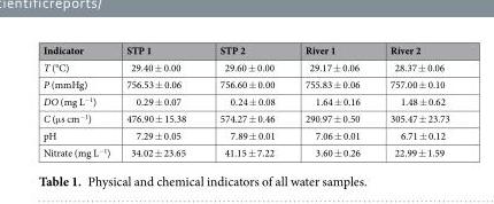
<table><thead><tr><td>Indicator</td><td>STP 1</td><td>STP 2</td><td>River 1</td><td>River 2</td></tr></thead><tbody><tr><td>T (°C)</td><td>29.40 ± 0.00</td><td>29.60 ± 0.00</td><td>29.17 ± 0.06</td><td>28.37 ± 0.06</td></tr><tr><td>P (mmHg)</td><td>756.53 ± 0.06</td><td>756.60 ± 0.00</td><td>755.83 ± 0.06</td><td>757.00 ± 0.10</td></tr><tr><td>DO (mg L<sup>−1</sup>)</td><td>0.29 ± 0.07</td><td>0.24 ± 0.08</td><td>1.64 ± 0.16</td><td>1.48 ± 0.62</td></tr><tr><td>C (μs cm<sup>−1</sup>)</td><td>476.90 ± 15.38</td><td>574.27 ± 0.46</td><td>290.97 ± 0.50</td><td>305.47 ± 23.73</td></tr><tr><td>pH</td><td>7.29 ± 0.05</td><td>7.89 ± 0.01</td><td>7.06 ± 0.01</td><td>6.71 ± 0.12</td></tr><tr><td>Nitrate (mg L<sup>−1</sup>)</td><td>34.02 ± 23.65</td><td>41.15 ± 7.22</td><td>3.60 ± 0.26</td><td>22.99 ± 1.59</td></tr></tbody></table>